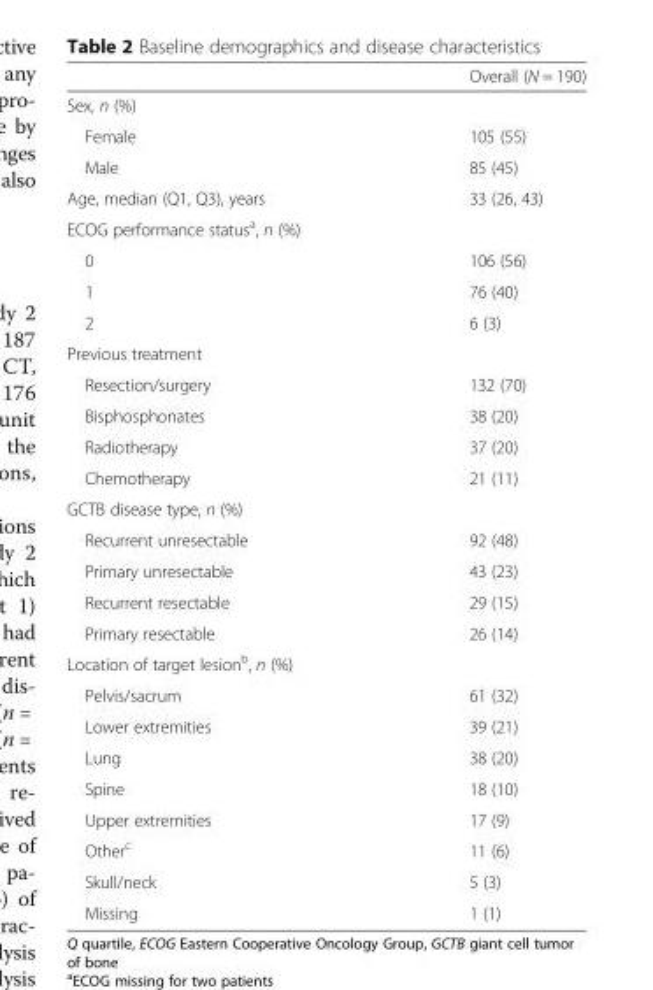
<table><thead><tr><td></td><td>Overall (N = 190)</td></tr></thead><tbody><tr><td colspan="2">Sex, n (%)</td></tr><tr><td>Female</td><td>105 (55)</td></tr><tr><td>Male</td><td>85 (45)</td></tr><tr><td>Age, median (Q1, Q3), years</td><td>33 (26, 43)</td></tr><tr><td colspan="2">ECOG performance status<sup>a</sup>, n (%)</td></tr><tr><td>0</td><td>106 (56)</td></tr><tr><td>1</td><td>76 (40)</td></tr><tr><td>2</td><td>6 (3)</td></tr><tr><td colspan="2">Previous treatment</td></tr><tr><td>Resection/surgery</td><td>132 (70)</td></tr><tr><td>Bisphosphonates</td><td>38 (20)</td></tr><tr><td>Radiotherapy</td><td>37 (20)</td></tr><tr><td>Chemotherapy</td><td>21 (11)</td></tr><tr><td colspan="2">GCTB disease type, n (%)</td></tr><tr><td>Recurrent unresectable</td><td>92 (48)</td></tr><tr><td>Primary unresectable</td><td>43 (23)</td></tr><tr><td>Recurrent resectable</td><td>29 (15)</td></tr><tr><td>Primary resectable</td><td>26 (14)</td></tr><tr><td colspan="2">Location of target lesion<sup>b</sup>, n (%)</td></tr><tr><td>Pelvis/sacrum</td><td>61 (32)</td></tr><tr><td>Lower extremities</td><td>39 (21)</td></tr><tr><td>Lung</td><td>38 (20)</td></tr><tr><td>Spine</td><td>18 (10)</td></tr><tr><td>Upper extremities</td><td>17 (9)</td></tr><tr><td>Other<sup>c</sup></td><td>11 (6)</td></tr><tr><td>Skull/neck</td><td>5 (3)</td></tr><tr><td>Missing</td><td>1 (1)</td></tr></tbody></table>